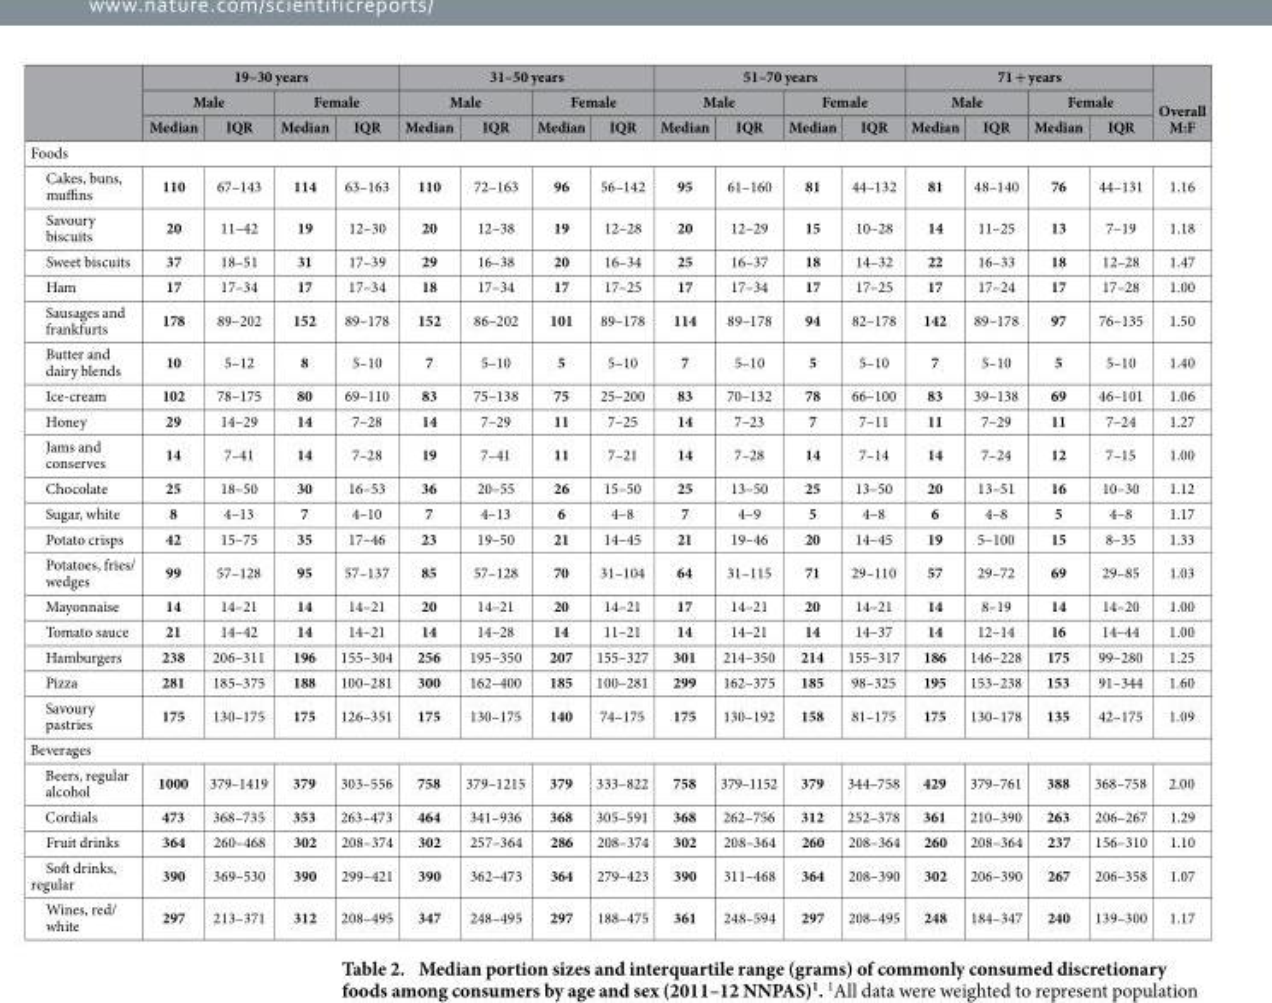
<table><thead><tr><td rowspan="3"></td><td colspan="4">19–30 years</td><td colspan="4">31–50 years</td><td colspan="4">51–70 years</td><td colspan="4">71 + years</td><td rowspan="3">Overall M:F</td></tr><tr><td colspan="2">Male</td><td colspan="2">Female</td><td colspan="2">Male</td><td colspan="2">Female</td><td colspan="2">Male</td><td colspan="2">Female</td><td colspan="2">Male</td><td colspan="2">Female</td></tr><tr><td>Median</td><td>IQR</td><td>Median</td><td>IQR</td><td>Median</td><td>IQR</td><td>Median</td><td>IQR</td><td>Median</td><td>IQR</td><td>Median</td><td>IQR</td><td>Median</td><td>IQR</td><td>Median</td><td>IQR</td></tr></thead><tbody><tr><td colspan="18">Foods</td></tr><tr><td>Cakes, buns, muffins</td><td>110</td><td>67–143</td><td>114</td><td>63–163</td><td>110</td><td>72–163</td><td>96</td><td>56–142</td><td>95</td><td>61–160</td><td>81</td><td>44–132</td><td>81</td><td>48–140</td><td>76</td><td>44–131</td><td>1.16</td></tr><tr><td>Savoury biscuits</td><td>20</td><td>11–42</td><td>19</td><td>12–30</td><td>20</td><td>12–38</td><td>19</td><td>12–28</td><td>20</td><td>12–29</td><td>15</td><td>10–28</td><td>14</td><td>11–25</td><td>13</td><td>7–19</td><td>1.18</td></tr><tr><td>Sweet biscuits</td><td>37</td><td>18–51</td><td>31</td><td>17–39</td><td>29</td><td>16–38</td><td>20</td><td>16–34</td><td>25</td><td>16–37</td><td>18</td><td>14–32</td><td>22</td><td>16–33</td><td>18</td><td>12–28</td><td>1.47</td></tr><tr><td>Ham</td><td>17</td><td>17–34</td><td>17</td><td>17–34</td><td>18</td><td>17–34</td><td>17</td><td>17–25</td><td>17</td><td>17–34</td><td>17</td><td>17–25</td><td>17</td><td>17–24</td><td>17</td><td>17–28</td><td>1.00</td></tr><tr><td>Sausages and frankfurts</td><td>178</td><td>89–202</td><td>152</td><td>89–178</td><td>152</td><td>86–202</td><td>101</td><td>89–178</td><td>114</td><td>89–178</td><td>94</td><td>82–178</td><td>142</td><td>89–178</td><td>97</td><td>76–135</td><td>1.50</td></tr><tr><td>Butter and dairy blends</td><td>10</td><td>5–12</td><td>8</td><td>5–10</td><td>7</td><td>5–10</td><td>5</td><td>5–10</td><td>7</td><td>5–10</td><td>5</td><td>5–10</td><td>7</td><td>5–10</td><td>5</td><td>5–10</td><td>1.40</td></tr><tr><td>Ice-cream</td><td>102</td><td>78–175</td><td>80</td><td>69–110</td><td>83</td><td>75–138</td><td>75</td><td>25–200</td><td>83</td><td>70–132</td><td>78</td><td>66–100</td><td>83</td><td>39–138</td><td>69</td><td>46–101</td><td>1.06</td></tr><tr><td>Honey</td><td>29</td><td>14–29</td><td>14</td><td>7–28</td><td>14</td><td>7–29</td><td>11</td><td>7–25</td><td>14</td><td>7–23</td><td>7</td><td>7–11</td><td>11</td><td>7–29</td><td>11</td><td>7–24</td><td>1.27</td></tr><tr><td>Jams and conserves</td><td>14</td><td>7–41</td><td>14</td><td>7–28</td><td>19</td><td>7–41</td><td>11</td><td>7–21</td><td>14</td><td>7–28</td><td>14</td><td>7–14</td><td>14</td><td>7–24</td><td>12</td><td>7–15</td><td>1.00</td></tr><tr><td>Chocolate</td><td>25</td><td>18–50</td><td>30</td><td>16–53</td><td>36</td><td>20–55</td><td>26</td><td>15–50</td><td>25</td><td>13–50</td><td>25</td><td>13–50</td><td>20</td><td>13–51</td><td>16</td><td>10–30</td><td>1.12</td></tr><tr><td>Sugar, white</td><td>8</td><td>4–13</td><td>7</td><td>4–10</td><td>7</td><td>4–13</td><td>6</td><td>4–8</td><td>7</td><td>4–9</td><td>5</td><td>4–8</td><td>6</td><td>4–8</td><td>5</td><td>4–8</td><td>1.17</td></tr><tr><td>Potato crisps</td><td>42</td><td>15–75</td><td>35</td><td>17–46</td><td>23</td><td>19–50</td><td>21</td><td>14–45</td><td>21</td><td>19–46</td><td>20</td><td>14–45</td><td>19</td><td>5–100</td><td>15</td><td>8–35</td><td>1.33</td></tr><tr><td>Potatoes, fries/ wedges</td><td>99</td><td>57–128</td><td>95</td><td>57–137</td><td>85</td><td>57–128</td><td>70</td><td>31–104</td><td>64</td><td>31–115</td><td>71</td><td>29–110</td><td>57</td><td>29–72</td><td>69</td><td>29–85</td><td>1.03</td></tr><tr><td>Mayonnaise</td><td>14</td><td>14–21</td><td>14</td><td>14–21</td><td>20</td><td>14–21</td><td>20</td><td>14–21</td><td>17</td><td>14–21</td><td>20</td><td>14–21</td><td>14</td><td>8–19</td><td>14</td><td>14–20</td><td>1.00</td></tr><tr><td>Tomato sauce</td><td>21</td><td>14–42</td><td>14</td><td>14–21</td><td>14</td><td>14–28</td><td>14</td><td>11–21</td><td>14</td><td>14–21</td><td>14</td><td>14–37</td><td>14</td><td>12–14</td><td>16</td><td>14–44</td><td>1.00</td></tr><tr><td>Hamburgers</td><td>238</td><td>206–311</td><td>196</td><td>155–304</td><td>256</td><td>195–350</td><td>207</td><td>155–327</td><td>301</td><td>214–350</td><td>214</td><td>155–317</td><td>186</td><td>146–228</td><td>175</td><td>99–280</td><td>1.25</td></tr><tr><td>Pizza</td><td>281</td><td>185–375</td><td>188</td><td>100–281</td><td>300</td><td>162–400</td><td>185</td><td>100–281</td><td>299</td><td>162–375</td><td>185</td><td>98–325</td><td>195</td><td>153–238</td><td>153</td><td>91–344</td><td>1.60</td></tr><tr><td>Savoury pastries</td><td>175</td><td>130–175</td><td>175</td><td>126–351</td><td>175</td><td>130–175</td><td>140</td><td>74–175</td><td>175</td><td>130–192</td><td>158</td><td>81–175</td><td>175</td><td>130–178</td><td>135</td><td>42–175</td><td>1.09</td></tr><tr><td colspan="18">Beverages</td></tr><tr><td>Beers, regular alcohol</td><td>1000</td><td>379–1419</td><td>379</td><td>303–556</td><td>758</td><td>379–1215</td><td>379</td><td>333–822</td><td>758</td><td>379–1152</td><td>379</td><td>344–758</td><td>429</td><td>379–761</td><td>388</td><td>368–758</td><td>2.00</td></tr><tr><td>Cordials</td><td>473</td><td>368–735</td><td>353</td><td>263–473</td><td>464</td><td>341–936</td><td>368</td><td>305–591</td><td>368</td><td>262–756</td><td>312</td><td>252–378</td><td>361</td><td>210–390</td><td>263</td><td>206–267</td><td>1.29</td></tr><tr><td>Fruit drinks</td><td>364</td><td>260–468</td><td>302</td><td>208–374</td><td>302</td><td>257–364</td><td>286</td><td>208–374</td><td>302</td><td>208–364</td><td>260</td><td>208–364</td><td>260</td><td>208–364</td><td>237</td><td>156–310</td><td>1.10</td></tr><tr><td>Soft drinks, regular</td><td>390</td><td>369–530</td><td>390</td><td>299–421</td><td>390</td><td>362–473</td><td>364</td><td>279–423</td><td>390</td><td>311–468</td><td>364</td><td>208–390</td><td>302</td><td>206–390</td><td>267</td><td>206–358</td><td>1.07</td></tr><tr><td>Wines, red/ white</td><td>297</td><td>213–371</td><td>312</td><td>208–495</td><td>347</td><td>248–495</td><td>297</td><td>188–475</td><td>361</td><td>248–594</td><td>297</td><td>208–495</td><td>248</td><td>184–347</td><td>240</td><td>139–300</td><td>1.17</td></tr></tbody></table>